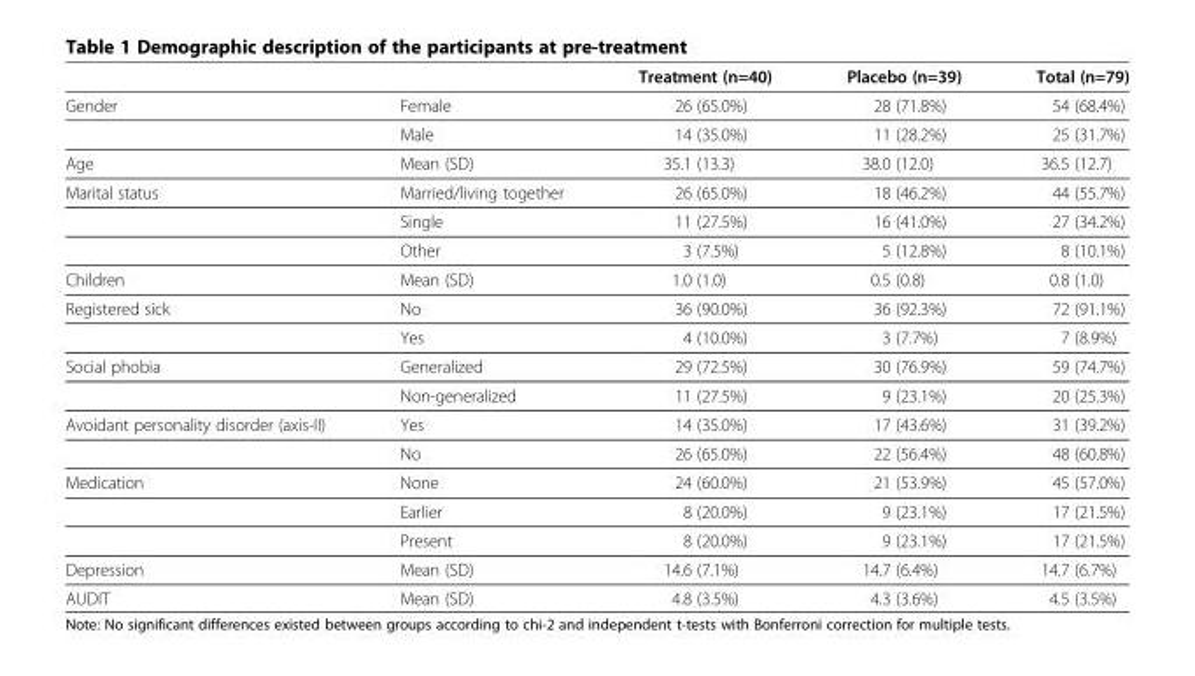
<table><thead><tr><td></td><td></td><td>Treatment (n=40)</td><td>Placebo (n=39)</td><td>Total (n=79)</td></tr></thead><tbody><tr><td rowspan="2">Gender</td><td>Female</td><td>26 (65.0%)</td><td>28 (71.8%)</td><td>54 (68.4%)</td></tr><tr><td>Male</td><td>14 (35.0%)</td><td>11 (28.2%)</td><td>25 (31.7%)</td></tr><tr><td>Age</td><td>Mean (SD)</td><td>35.1 (13.3)</td><td>38.0 (12.0)</td><td>36.5 (12.7)</td></tr><tr><td rowspan="3">Marital status</td><td>Married/living together</td><td>26 (65.0%)</td><td>18 (46.2%)</td><td>44 (55.7%)</td></tr><tr><td>Single</td><td>11 (27.5%)</td><td>16 (41.0%)</td><td>27 (34.2%)</td></tr><tr><td>Other</td><td>3 (7.5%)</td><td>5 (12.8%)</td><td>8 (10.1%)</td></tr><tr><td>Children</td><td>Mean (SD)</td><td>1.0 (1.0)</td><td>0.5 (0.8)</td><td>0.8 (1.0)</td></tr><tr><td rowspan="2">Registered sick</td><td>No</td><td>36 (90.0%)</td><td>36 (92.3%)</td><td>72 (91.1%)</td></tr><tr><td>Yes</td><td>4 (10.0%)</td><td>3 (7.7%)</td><td>7 (8.9%)</td></tr><tr><td rowspan="2">Social phobia</td><td>Generalized</td><td>29 (72.5%)</td><td>30 (76.9%)</td><td>59 (74.7%)</td></tr><tr><td>Non-generalized</td><td>11 (27.5%)</td><td>9 (23.1%)</td><td>20 (25.3%)</td></tr><tr><td rowspan="2">Avoidant personality disorder (axis-II)</td><td>Yes</td><td>14 (35.0%)</td><td>17 (43.6%)</td><td>31 (39.2%)</td></tr><tr><td>No</td><td>26 (65.0%)</td><td>22 (56.4%)</td><td>48 (60.8%)</td></tr><tr><td rowspan="3">Medication</td><td>None</td><td>24 (60.0%)</td><td>21 (53.9%)</td><td>45 (57.0%)</td></tr><tr><td>Earlier</td><td>8 (20.0%)</td><td>9 (23.1%)</td><td>17 (21.5%)</td></tr><tr><td>Present</td><td>8 (20.0%)</td><td>9 (23.1%)</td><td>17 (21.5%)</td></tr><tr><td>Depression</td><td>Mean (SD)</td><td>14.6 (7.1%)</td><td>14.7 (6.4%)</td><td>14.7 (6.7%)</td></tr><tr><td>AUDIT</td><td>Mean (SD)</td><td>4.8 (3.5%)</td><td>4.3 (3.6%)</td><td>4.5 (3.5%)</td></tr></tbody></table>